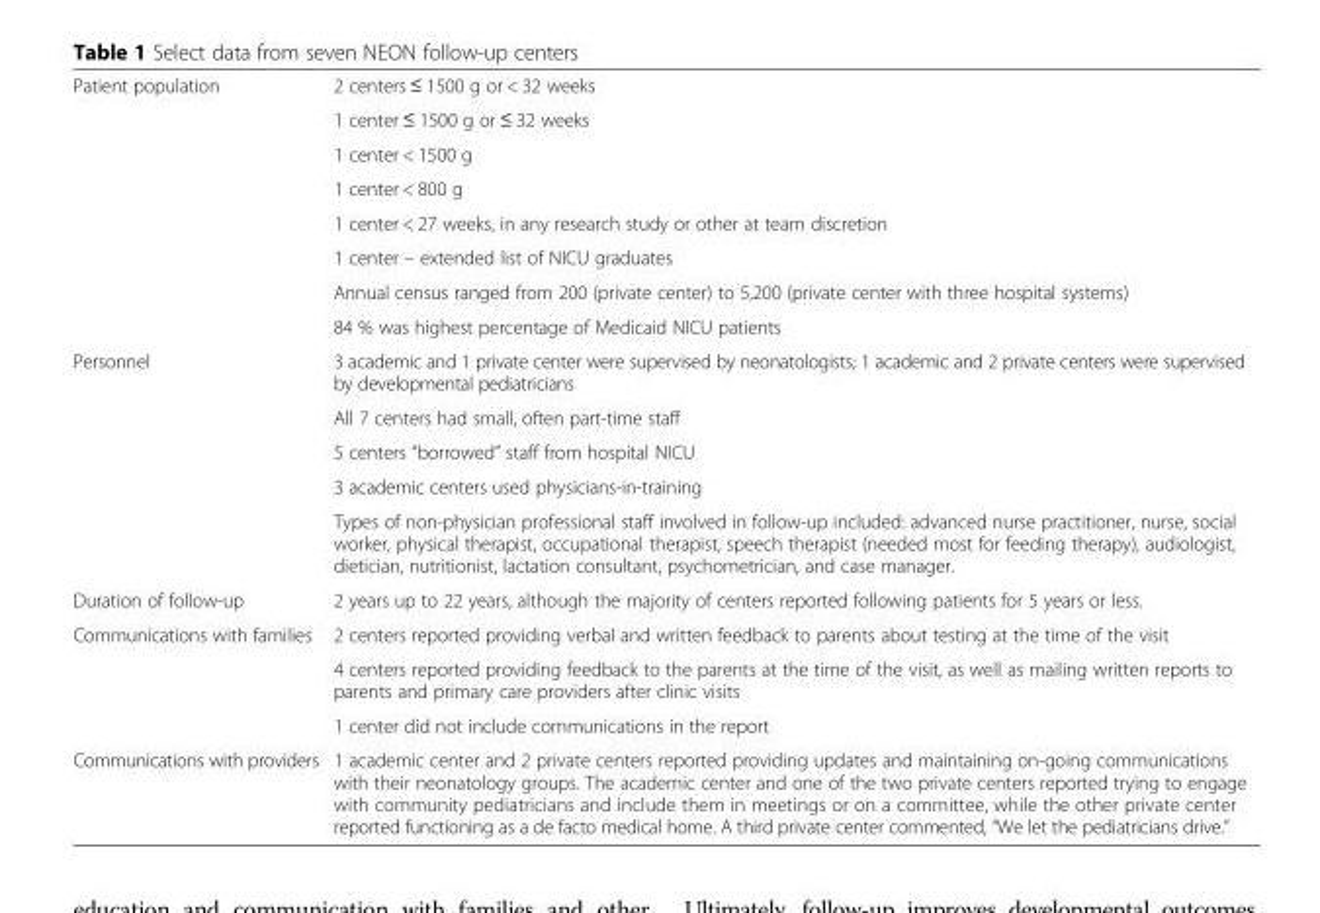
<table><tbody><tr><td rowspan="8">Patient population</td><td>2 centers ≤ 1500 g or &lt; 32 weeks</td></tr><tr><td>1 center ≤ 1500 g or ≤ 32 weeks</td></tr><tr><td>1 center &lt; 1500 g</td></tr><tr><td>1 center &lt; 800 g</td></tr><tr><td>1 center &lt; 27 weeks, in any research study or other at team discretion</td></tr><tr><td>1 center – extended list of NICU graduates</td></tr><tr><td>Annual census ranged from 200 (private center) to 5,200 (private center with three hospital systems)</td></tr><tr><td>84 % was highest percentage of Medicaid NICU patients</td></tr><tr><td rowspan="5">Personnel</td><td>3 academic and 1 private center were supervised by neonatologists; 1 academic and 2 private centers were supervised by developmental pediatricians</td></tr><tr><td>All 7 centers had small, often part-time staff</td></tr><tr><td>5 centers “borrowed” staff from hospital NICU</td></tr><tr><td>3 academic centers used physicians-in-training</td></tr><tr><td>Types of non-physician professional staff involved in follow-up included: advanced nurse practitioner, nurse, social worker, physical therapist, occupational therapist, speech therapist (needed most for feeding therapy), audiologist, dietician, nutritionist, lactation consultant, psychometrician, and case manager.</td></tr><tr><td>Duration of follow-up</td><td>2 years up to 22 years, although the majority of centers reported following patients for 5 years or less.</td></tr><tr><td rowspan="3">Communications with families</td><td>2 centers reported providing verbal and written feedback to parents about testing at the time of the visit</td></tr><tr><td>4 centers reported providing feedback to the parents at the time of the visit, as well as mailing written reports to parents and primary care providers after clinic visits</td></tr><tr><td>1 center did not include communications in the report</td></tr><tr><td>Communications with providers</td><td>1 academic center and 2 private centers reported providing updates and maintaining on-going communications with their neonatology groups. The academic center and one of the two private centers reported trying to engage with community pediatricians and include them in meetings or on a committee, while the other private center reported functioning as a de facto medical home. A third private center commented, “We let the pediatricians drive.”</td></tr></tbody></table>